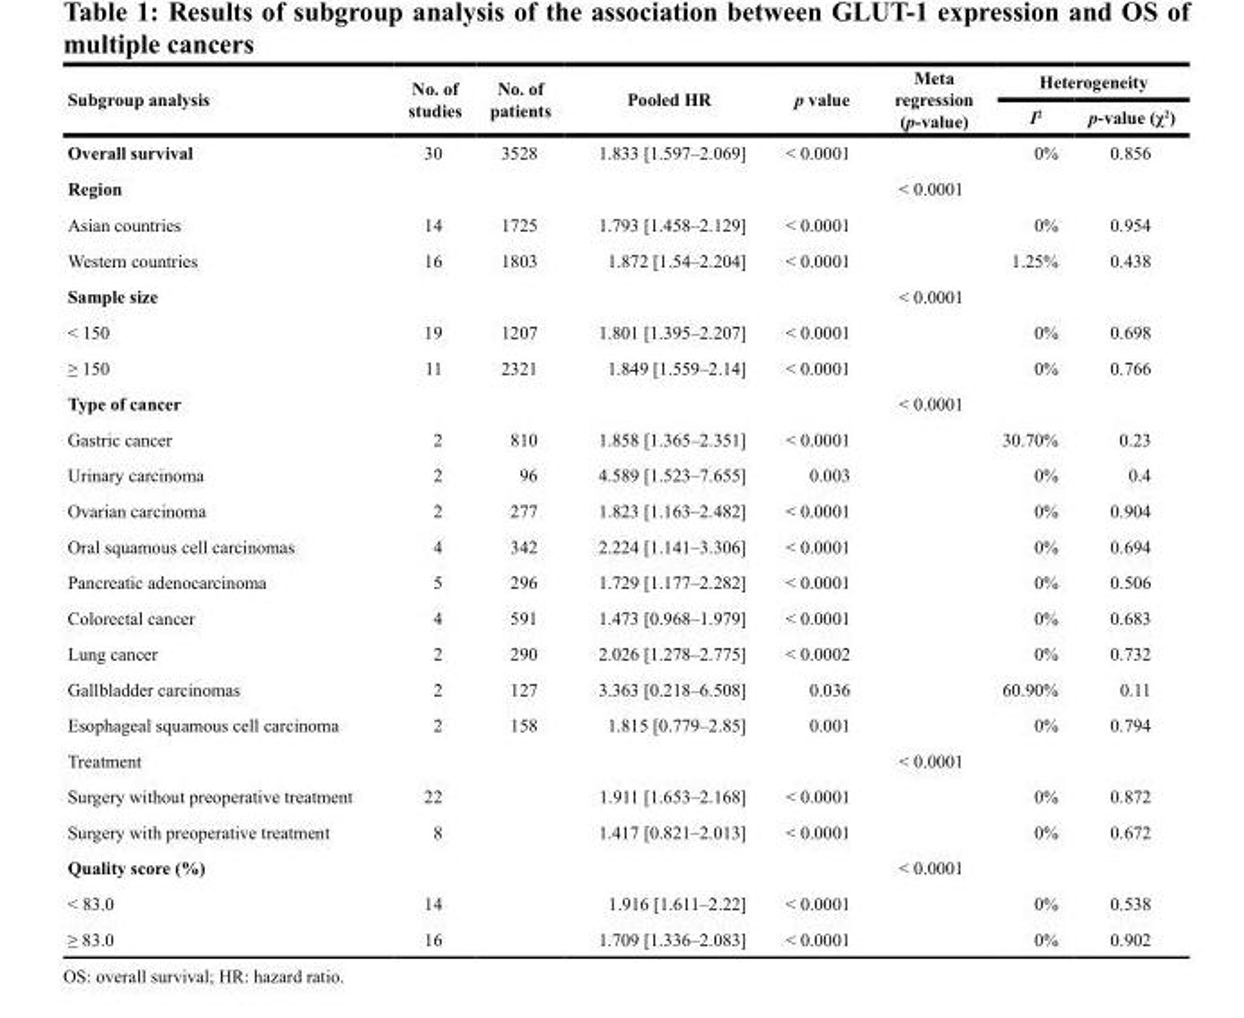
<table><thead><tr><td rowspan="2">Subgroup analysis</td><td rowspan="2">No. of studies</td><td rowspan="2">No. of patients</td><td rowspan="2">Pooled HR</td><td rowspan="2">p value</td><td rowspan="2">Meta regression (p-value)</td><td colspan="2">Heterogeneity</td></tr><tr><td>I<sup>2</sup></td><td>p-value (χ<sup>2</sup>)</td></tr></thead><tbody><tr><td>Overall survival</td><td>30</td><td>3528</td><td>1.833 [1.597–2.069]</td><td>&lt; 0.0001</td><td></td><td>0%</td><td>0.856</td></tr><tr><td>Region</td><td></td><td></td><td></td><td></td><td>&lt; 0.0001</td><td></td><td></td></tr><tr><td>Asian countries</td><td>14</td><td>1725</td><td>1.793 [1.458–2.129]</td><td>&lt; 0.0001</td><td></td><td>0%</td><td>0.954</td></tr><tr><td>Western countries</td><td>16</td><td>1803</td><td>1.872 [1.54–2.204]</td><td>&lt; 0.0001</td><td></td><td>1.25%</td><td>0.438</td></tr><tr><td>Sample size</td><td></td><td></td><td></td><td></td><td>&lt; 0.0001</td><td></td><td></td></tr><tr><td>&lt; 150</td><td>19</td><td>1207</td><td>1.801 [1.395–2.207]</td><td>&lt; 0.0001</td><td></td><td>0%</td><td>0.698</td></tr><tr><td>≥ 150</td><td>11</td><td>2321</td><td>1.849 [1.559–2.14]</td><td>&lt; 0.0001</td><td></td><td>0%</td><td>0.766</td></tr><tr><td>Type of cancer</td><td></td><td></td><td></td><td></td><td>&lt; 0.0001</td><td></td><td></td></tr><tr><td>Gastric cancer</td><td>2</td><td>810</td><td>1.858 [1.365–2.351]</td><td>&lt; 0.0001</td><td></td><td>30.70%</td><td>0.23</td></tr><tr><td>Urinary carcinoma</td><td>2</td><td>96</td><td>4.589 [1.523–7.655]</td><td>0.003</td><td></td><td>0%</td><td>0.4</td></tr><tr><td>Ovarian carcinoma</td><td>2</td><td>277</td><td>1.823 [1.163–2.482]</td><td>&lt; 0.0001</td><td></td><td>0%</td><td>0.904</td></tr><tr><td>Oral squamous cell carcinomas</td><td>4</td><td>342</td><td>2.224 [1.141–3.306]</td><td>&lt; 0.0001</td><td></td><td>0%</td><td>0.694</td></tr><tr><td>Pancreatic adenocarcinoma</td><td>5</td><td>296</td><td>1.729 [1.177–2.282]</td><td>&lt; 0.0001</td><td></td><td>0%</td><td>0.506</td></tr><tr><td>Colorectal cancer</td><td>4</td><td>591</td><td>1.473 [0.968–1.979]</td><td>&lt; 0.0001</td><td></td><td>0%</td><td>0.683</td></tr><tr><td>Lung cancer</td><td>2</td><td>290</td><td>2.026 [1.278–2.775]</td><td>&lt; 0.0002</td><td></td><td>0%</td><td>0.732</td></tr><tr><td>Gallbladder carcinomas</td><td>2</td><td>127</td><td>3.363 [0.218–6.508]</td><td>0.036</td><td></td><td>60.90%</td><td>0.11</td></tr><tr><td>Esophageal squamous cell carcinoma</td><td>2</td><td>158</td><td>1.815 [0.779–2.85]</td><td>0.001</td><td></td><td>0%</td><td>0.794</td></tr><tr><td>Treatment</td><td></td><td></td><td></td><td></td><td>&lt; 0.0001</td><td></td><td></td></tr><tr><td>Surgery without preoperative treatment</td><td>22</td><td></td><td>1.911 [1.653–2.168]</td><td>&lt; 0.0001</td><td></td><td>0%</td><td>0.872</td></tr><tr><td>Surgery with preoperative treatment</td><td>8</td><td></td><td>1.417 [0.821–2.013]</td><td>&lt; 0.0001</td><td></td><td>0%</td><td>0.672</td></tr><tr><td>Quality score (%)</td><td></td><td></td><td></td><td></td><td>&lt; 0.0001</td><td></td><td></td></tr><tr><td>&lt; 83.0</td><td>14</td><td></td><td>1.916 [1.611–2.22]</td><td>&lt; 0.0001</td><td></td><td>0%</td><td>0.538</td></tr><tr><td>≥ 83.0</td><td>16</td><td></td><td>1.709 [1.336–2.083]</td><td>&lt; 0.0001</td><td></td><td>0%</td><td>0.902</td></tr></tbody></table>